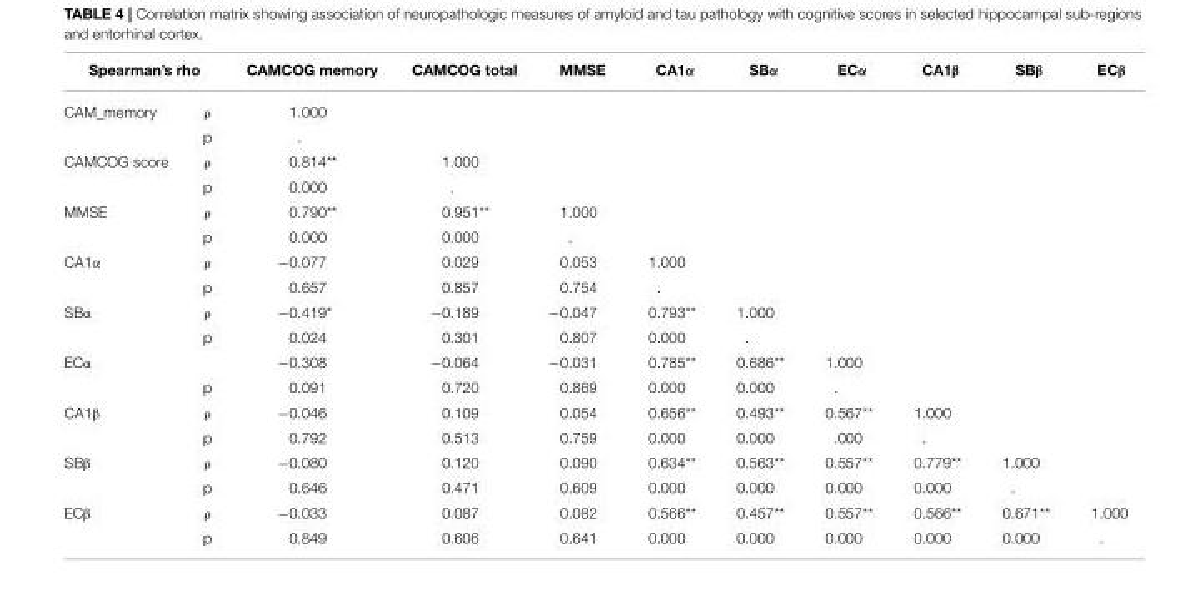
<table><thead><tr><td colspan="2">Spearman’s rho</td><td rowspan="2">CAMCOG memory 1.000</td><td rowspan="2">CAMCOG total</td><td rowspan="2">MMSE</td><td rowspan="2">CA1α</td><td rowspan="2">SBα</td><td rowspan="2">ECα</td><td rowspan="2">CA1β</td><td rowspan="2">SBβ</td><td rowspan="2">ECβ</td></tr><tr><td>CAM_memory</td><td>ρ</td></tr></thead><tbody><tr><td></td><td>p</td><td>.</td><td></td><td></td><td></td><td></td><td></td><td></td><td></td><td></td></tr><tr><td rowspan="2">CAMCOG score</td><td>ρ</td><td>0.814**</td><td>1.000</td><td></td><td></td><td></td><td></td><td></td><td></td><td></td></tr><tr><td>p</td><td>0.000</td><td>.</td><td></td><td></td><td></td><td></td><td></td><td></td><td></td></tr><tr><td rowspan="2">MMSE</td><td>ρ</td><td>0.790**</td><td>0.951**</td><td>1.000</td><td></td><td></td><td></td><td></td><td></td><td></td></tr><tr><td>p</td><td>0.000</td><td>0.000</td><td>.</td><td></td><td></td><td></td><td></td><td></td><td></td></tr><tr><td rowspan="2">CA1α</td><td>ρ</td><td>−0.077</td><td>0.029</td><td>0.053</td><td>1.000</td><td></td><td></td><td></td><td></td><td></td></tr><tr><td>p</td><td>0.657</td><td>0.857</td><td>0.754</td><td>.</td><td></td><td></td><td></td><td></td><td></td></tr><tr><td rowspan="2">SBα</td><td>ρ</td><td>−0.419*</td><td>−0.189</td><td>−0.047</td><td>0.793**</td><td>1.000</td><td></td><td></td><td></td><td></td></tr><tr><td>p</td><td>0.024</td><td>0.301</td><td>0.807</td><td>0.000</td><td>.</td><td></td><td></td><td></td><td></td></tr><tr><td rowspan="2">ECα</td><td></td><td>−0.308</td><td>−0.064</td><td>−0.031</td><td>0.785**</td><td>0.686**</td><td>1.000</td><td></td><td></td><td></td></tr><tr><td>p</td><td>0.091</td><td>0.720</td><td>0.869</td><td>0.000</td><td>0.000</td><td>.</td><td></td><td></td><td></td></tr><tr><td rowspan="2">CA1β</td><td>ρ</td><td>−0.046</td><td>0.109</td><td>0.054</td><td>0.656**</td><td>0.493**</td><td>0.567**</td><td>1.000</td><td></td><td></td></tr><tr><td>p</td><td>0.792</td><td>0.513</td><td>0.759</td><td>0.000</td><td>0.000</td><td>.000</td><td>.</td><td></td><td></td></tr><tr><td rowspan="2">SBβ</td><td>ρ</td><td>−0.080</td><td>0.120</td><td>0.090</td><td>0.634**</td><td>0.563**</td><td>0.557**</td><td>0.779**</td><td>1.000</td><td></td></tr><tr><td>p</td><td>0.646</td><td>0.471</td><td>0.609</td><td>0.000</td><td>0.000</td><td>0.000</td><td>0.000</td><td>.</td><td></td></tr><tr><td rowspan="2">ECβ</td><td>ρ</td><td>−0.033</td><td>0.087</td><td>0.082</td><td>0.566**</td><td>0.457**</td><td>0.557**</td><td>0.566**</td><td>0.671**</td><td>1.000</td></tr><tr><td>p</td><td>0.849</td><td>0.606</td><td>0.641</td><td>0.000</td><td>0.000</td><td>0.000</td><td>0.000</td><td>0.000</td><td>.</td></tr></tbody></table>